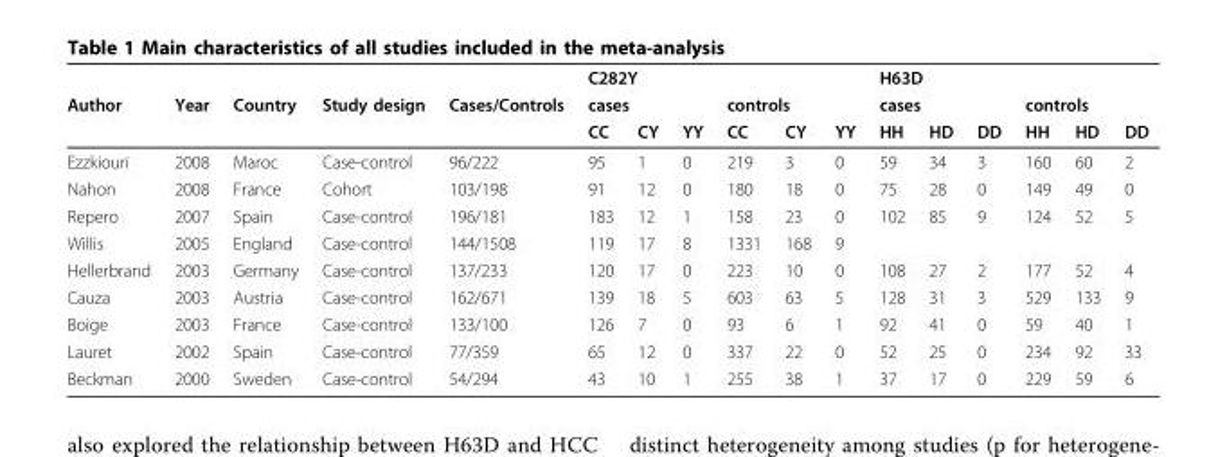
<table><thead><tr><td rowspan="3">Author</td><td rowspan="3">Year</td><td rowspan="3">Country</td><td rowspan="3">Study design</td><td rowspan="3">Cases/Controls</td><td colspan="6">C282Y</td><td colspan="6">H63D</td></tr><tr><td colspan="3">cases</td><td colspan="3">controls</td><td colspan="3">cases</td><td colspan="3">controls</td></tr><tr><td>CC</td><td>CY</td><td>YY</td><td>CC</td><td>CY</td><td>YY</td><td>HH</td><td>HD</td><td>DD</td><td>HH</td><td>HD</td><td>DD</td></tr></thead><tbody><tr><td>Ezzkiouri</td><td>2008</td><td>Maroc</td><td>Case-control</td><td>96/222</td><td>95</td><td>1</td><td>0</td><td>219</td><td>3</td><td>0</td><td>59</td><td>34</td><td>3</td><td>160</td><td>60</td><td>2</td></tr><tr><td>Nahon</td><td>2008</td><td>France</td><td>Cohort</td><td>103/198</td><td>91</td><td>12</td><td>0</td><td>180</td><td>18</td><td>0</td><td>75</td><td>28</td><td>0</td><td>149</td><td>49</td><td>0</td></tr><tr><td>Repero</td><td>2007</td><td>Spain</td><td>Case-control</td><td>196/181</td><td>183</td><td>12</td><td>1</td><td>158</td><td>23</td><td>0</td><td>102</td><td>85</td><td>9</td><td>124</td><td>52</td><td>5</td></tr><tr><td>Willis</td><td>2005</td><td>England</td><td>Case-control</td><td>144/1508</td><td>119</td><td>17</td><td>8</td><td>1331</td><td>168</td><td>9</td><td></td><td></td><td></td><td></td><td></td><td></td></tr><tr><td>Hellerbrand</td><td>2003</td><td>Germany</td><td>Case-control</td><td>137/233</td><td>120</td><td>17</td><td>0</td><td>223</td><td>10</td><td>0</td><td>108</td><td>27</td><td>2</td><td>177</td><td>52</td><td>4</td></tr><tr><td>Cauza</td><td>2003</td><td>Austria</td><td>Case-control</td><td>162/671</td><td>139</td><td>18</td><td>5</td><td>603</td><td>63</td><td>5</td><td>128</td><td>31</td><td>3</td><td>529</td><td>133</td><td>9</td></tr><tr><td>Boige</td><td>2003</td><td>France</td><td>Case-control</td><td>133/100</td><td>126</td><td>7</td><td>0</td><td>93</td><td>6</td><td>1</td><td>92</td><td>41</td><td>0</td><td>59</td><td>40</td><td>1</td></tr><tr><td>Lauret</td><td>2002</td><td>Spain</td><td>Case-control</td><td>77/359</td><td>65</td><td>12</td><td>0</td><td>337</td><td>22</td><td>0</td><td>52</td><td>25</td><td>0</td><td>234</td><td>92</td><td>33</td></tr><tr><td>Beckman</td><td>2000</td><td>Sweden</td><td>Case-control</td><td>54/294</td><td>43</td><td>10</td><td>1</td><td>255</td><td>38</td><td>1</td><td>37</td><td>17</td><td>0</td><td>229</td><td>59</td><td>6</td></tr></tbody></table>